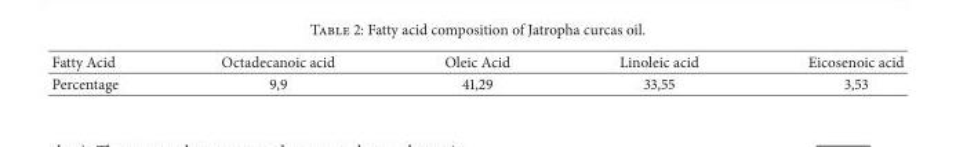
<table><thead><tr><td>Fatty Acid</td><td>Octadecanoic acid</td><td>Oleic Acid</td><td>Linoleic acid</td><td>Eicosenoic acid</td></tr></thead><tbody><tr><td>Percentage</td><td>9,9</td><td>41,29</td><td>33,55</td><td>3,53</td></tr></tbody></table>